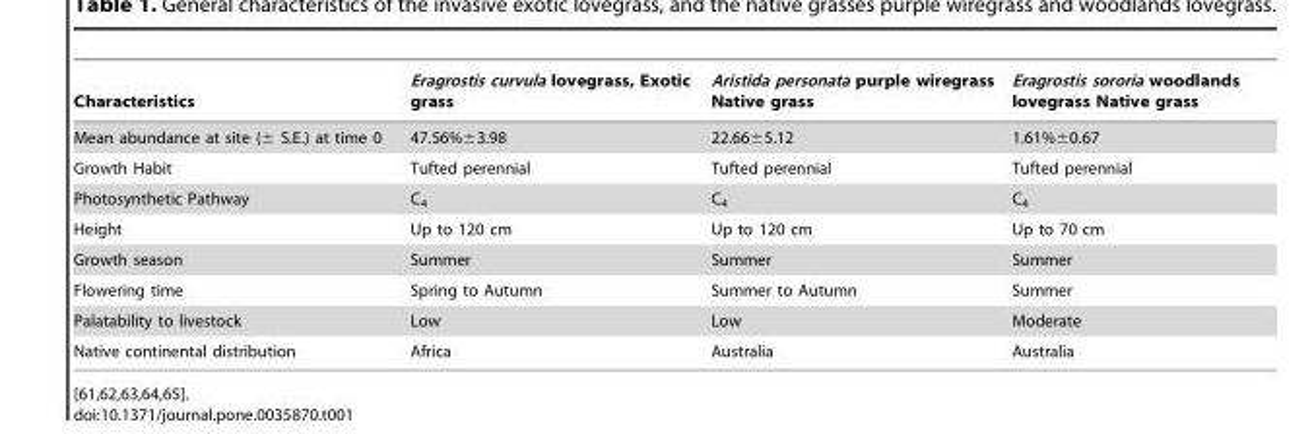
<table><thead><tr><td>Characteristics</td><td>Eragrostis curvula lovegrass, Exotic grass</td><td>Aristida personata purple wiregrass Native grass</td><td>Eragrostis sororia woodlands lovegrass Native grass</td></tr></thead><tbody><tr><td>Mean abundance at site (± S.E.) at time 0</td><td>47.56%±3.98</td><td>22.66±5.12</td><td>1.61%±0.67</td></tr><tr><td>Growth Habit</td><td>Tufted perennial</td><td>Tufted perennial</td><td>Tufted perennial</td></tr><tr><td>Photosynthetic Pathway</td><td>C<sub>4</sub></td><td>C<sub>4</sub></td><td>C<sub>4</sub></td></tr><tr><td>Height</td><td>Up to 120 cm</td><td>Up to 120 cm</td><td>Up to 70 cm</td></tr><tr><td>Growth season</td><td>Summer</td><td>Summer</td><td>Summer</td></tr><tr><td>Flowering time</td><td>Spring to Autumn</td><td>Summer to Autumn</td><td>Summer</td></tr><tr><td>Palatability to livestock</td><td>Low</td><td>Low</td><td>Moderate</td></tr><tr><td>Native continental distribution</td><td>Africa</td><td>Australia</td><td>Australia</td></tr></tbody></table>